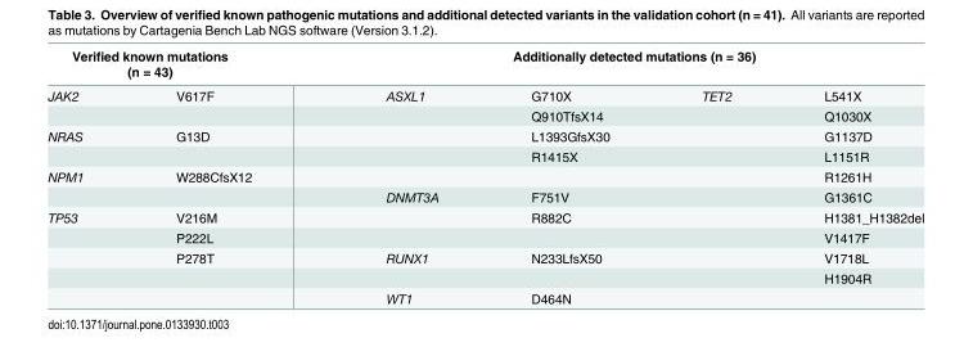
<table><thead><tr><td colspan="2">Verified known mutations (n = 43)</td><td colspan="4">Additionally detected mutations (n = 36)</td></tr><tr><td>JAK2</td><td>V617F</td><td>ASXL1</td><td>G710X</td><td>TET2</td><td>L541X</td></tr></thead><tbody><tr><td></td><td></td><td></td><td>Q910TfsX14</td><td></td><td>Q1030X</td></tr><tr><td rowspan="2">NRAS</td><td>G13D</td><td></td><td>L1393GfsX30</td><td></td><td>G1137D</td></tr><tr><td></td><td></td><td>R1415X</td><td></td><td>L1151R</td></tr><tr><td rowspan="2">NPM1</td><td>W288CfsX12</td><td></td><td></td><td></td><td>R1261H</td></tr><tr><td></td><td>DNMT3A</td><td>F751V</td><td></td><td>G1361C</td></tr><tr><td rowspan="5">TP53</td><td>V216M</td><td></td><td>R882C</td><td></td><td>H1381_H1382del</td></tr><tr><td>P222L</td><td></td><td></td><td></td><td>V1417F</td></tr><tr><td>P278T</td><td>RUNX1</td><td>N233LfsX50</td><td></td><td>V1718L</td></tr><tr><td></td><td></td><td></td><td></td><td>H1904R</td></tr><tr><td></td><td>WT1</td><td>D464N</td><td></td><td></td></tr></tbody></table>